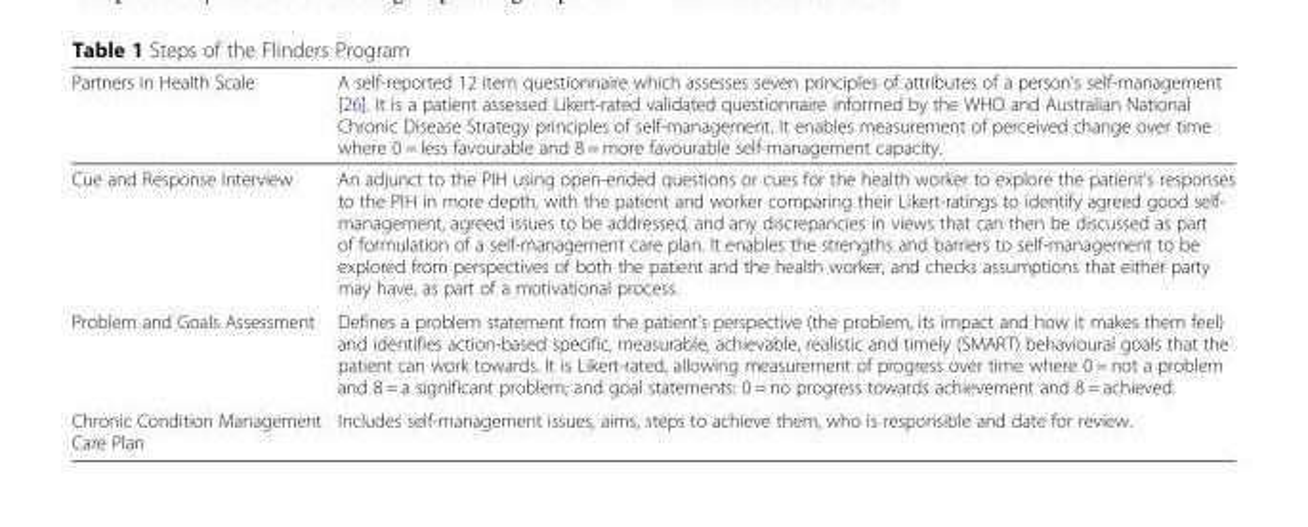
<table><thead><tr><td>Partners in Health Scale</td><td>A self-reported 12 item questionnaire which assesses seven principles of attributes of a person’s self-management [26]. It is a patient assessed Likert-rated validated questionnaire informed by the WHO and Australian National Chronic Disease Strategy principles of self-management. It enables measurement of perceived change over time where 0 = less favourable and 8 = more favourable self-management capacity.</td></tr></thead><tbody><tr><td>Cue and Response Interview</td><td>An adjunct to the PIH using open-ended questions or cues for the health worker to explore the patient’s responses to the PIH in more depth, with the patient and worker comparing their Likert-ratings to identify agreed good self- management, agreed issues to be addressed, and any discrepancies in views that can then be discussed as part of formulation of a self-management care plan. It enables the strengths and barriers to self-management to be explored from perspectives of both the patient and the health worker, and checks assumptions that either party may have, as part of a motivational process.</td></tr><tr><td>Problem and Goals Assessment</td><td>Defines a problem statement from the patient’s perspective (the problem, its impact and how it makes them feel) and identifies action-based specific, measurable, achievable, realistic and timely (SMART) behavioural goals that the patient can work towards. It is Likert-rated, allowing measurement of progress over time where 0 = not a problem and 8 = a significant problem; and goal statements: 0 = no progress towards achievement and 8 = achieved.</td></tr><tr><td>Chronic Condition Management Care Plan</td><td>Includes self-management issues, aims, steps to achieve them, who is responsible and date for review.</td></tr></tbody></table>